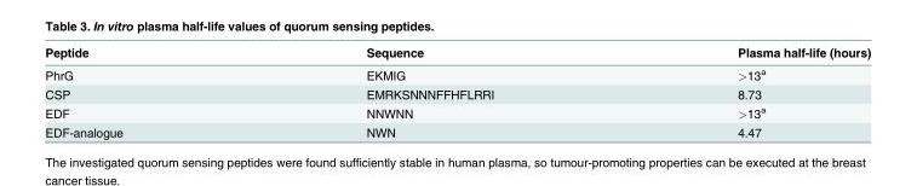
<table><thead><tr><td>Peptide</td><td>Sequence</td><td>Plasma half-life (hours)</td></tr></thead><tbody><tr><td>PhrG</td><td>EKMIG</td><td>&gt;13<sup>a</sup></td></tr><tr><td>CSP</td><td>EMRKSNNNFFHFLRRI</td><td>8.73</td></tr><tr><td>EDF</td><td>NNWNN</td><td>&gt;13<sup>a</sup></td></tr><tr><td>EDF-analogue</td><td>NWN</td><td>4.47</td></tr></tbody></table>